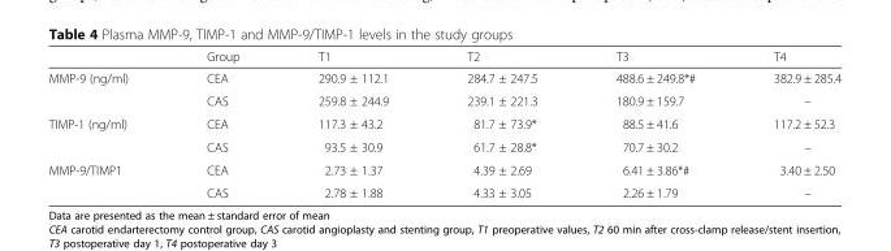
<table><thead><tr><td></td><td>Group</td><td>T1</td><td>T2</td><td>T3</td><td>T4</td></tr></thead><tbody><tr><td rowspan="2">MMP-9 (ng/ml)</td><td>CEA</td><td>290.9 ± 112.1</td><td>284.7 ± 247.5</td><td>488.6 ± 249.8*#</td><td>382.9 ± 285.4</td></tr><tr><td>CAS</td><td>259.8 ± 244.9</td><td>239.1 ± 221.3</td><td>180.9 ± 159.7</td><td>–</td></tr><tr><td rowspan="2">TIMP-1 (ng/ml)</td><td>CEA</td><td>117.3 ± 43.2</td><td>81.7 ± 73.9*</td><td>88.5 ± 41.6</td><td>117.2 ± 52.3</td></tr><tr><td>CAS</td><td>93.5 ± 30.9</td><td>61.7 ± 28.8*</td><td>70.7 ± 30.2</td><td>–</td></tr><tr><td rowspan="2">MMP-9/TIMP1</td><td>CEA</td><td>2.73 ± 1.37</td><td>4.39 ± 2.69</td><td>6.41 ± 3.86*#</td><td>3.40 ± 2.50</td></tr><tr><td>CAS</td><td>2.78 ± 1.88</td><td>4.33 ± 3.05</td><td>2.26 ± 1.79</td><td>–</td></tr></tbody></table>